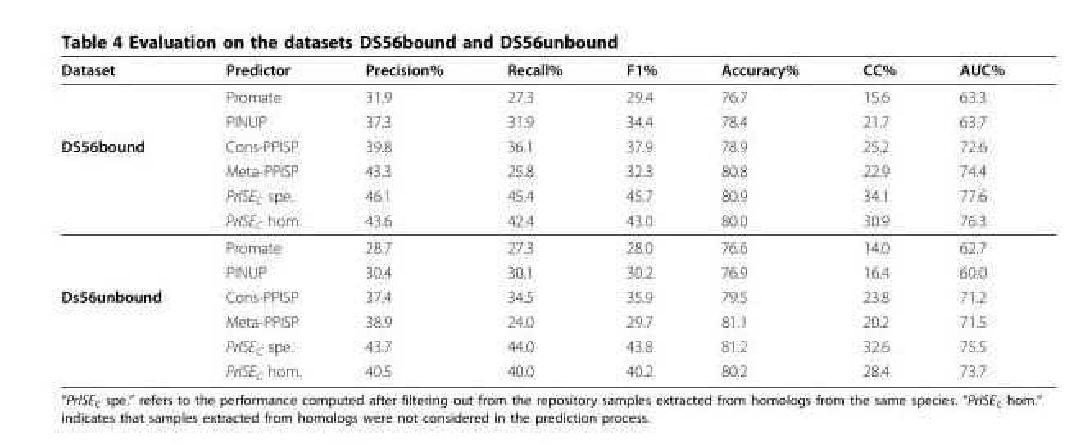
<table><thead><tr><td>Dataset</td><td>Predictor</td><td>Precision%</td><td>Recall%</td><td>F1%</td><td>Accuracy%</td><td>CC%</td><td>AUC%</td></tr></thead><tbody><tr><td></td><td>Promate</td><td>31.9</td><td>27.3</td><td>29.4</td><td>76.7</td><td>15.6</td><td>63.3</td></tr><tr><td></td><td>PINUP</td><td>37.3</td><td>31.9</td><td>34.4</td><td>78.4</td><td>21.7</td><td>63.7</td></tr><tr><td rowspan="6">DS56bound</td><td>Cons-PPISP</td><td>39.8</td><td>36.1</td><td>37.9</td><td>78.9</td><td>25.2</td><td>72.6</td></tr><tr><td>Meta-PPISP</td><td>43.3</td><td>25.8</td><td>32.3</td><td>80.8</td><td>22.9</td><td>74.4</td></tr><tr><td>PrISE<sub>C</sub> spe.</td><td>46.1</td><td>45.4</td><td>45.7</td><td>80.9</td><td>34.1</td><td>77.6</td></tr><tr><td>PrISE<sub>C</sub> hom.</td><td>43.6</td><td>42.4</td><td>43.0</td><td>80.0</td><td>30.9</td><td>76.3</td></tr><tr><td>Promate</td><td>28.7</td><td>27.3</td><td>28.0</td><td>76.6</td><td>14.0</td><td>62.7</td></tr><tr><td>PINUP</td><td>30.4</td><td>30.1</td><td>30.2</td><td>76.9</td><td>16.4</td><td>60.0</td></tr><tr><td rowspan="4">Ds56unbound</td><td>Cons-PPISP</td><td>37.4</td><td>34.5</td><td>35.9</td><td>79.5</td><td>23.8</td><td>71.2</td></tr><tr><td>Meta-PPISP</td><td>38.9</td><td>24.0</td><td>29.7</td><td>81.1</td><td>20.2</td><td>71.5</td></tr><tr><td>PrISE<sub>C</sub> spe.</td><td>43.7</td><td>44.0</td><td>43.8</td><td>81.2</td><td>32.6</td><td>75.5</td></tr><tr><td>PrISE<sub>C</sub> hom.</td><td>40.5</td><td>40.0</td><td>40.2</td><td>80.2</td><td>28.4</td><td>73.7</td></tr></tbody></table>